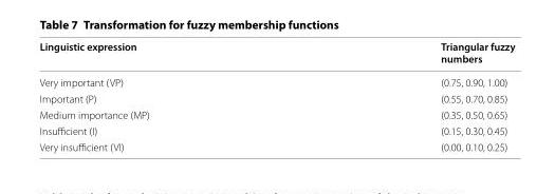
<table><thead><tr><td>Linguistic expression</td><td>Triangular fuzzy numbers</td></tr></thead><tbody><tr><td>Very important (VP)</td><td>(0.75, 0.90, 1.00)</td></tr><tr><td>Important (P)</td><td>(0.55, 0.70, 0.85)</td></tr><tr><td>Medium importance (MP)</td><td>(0.35, 0.50, 0.65)</td></tr><tr><td>Insufficient (I)</td><td>(0.15, 0.30, 0.45)</td></tr><tr><td>Very insufficient (VI)</td><td>(0.00, 0.10, 0.25)</td></tr></tbody></table>